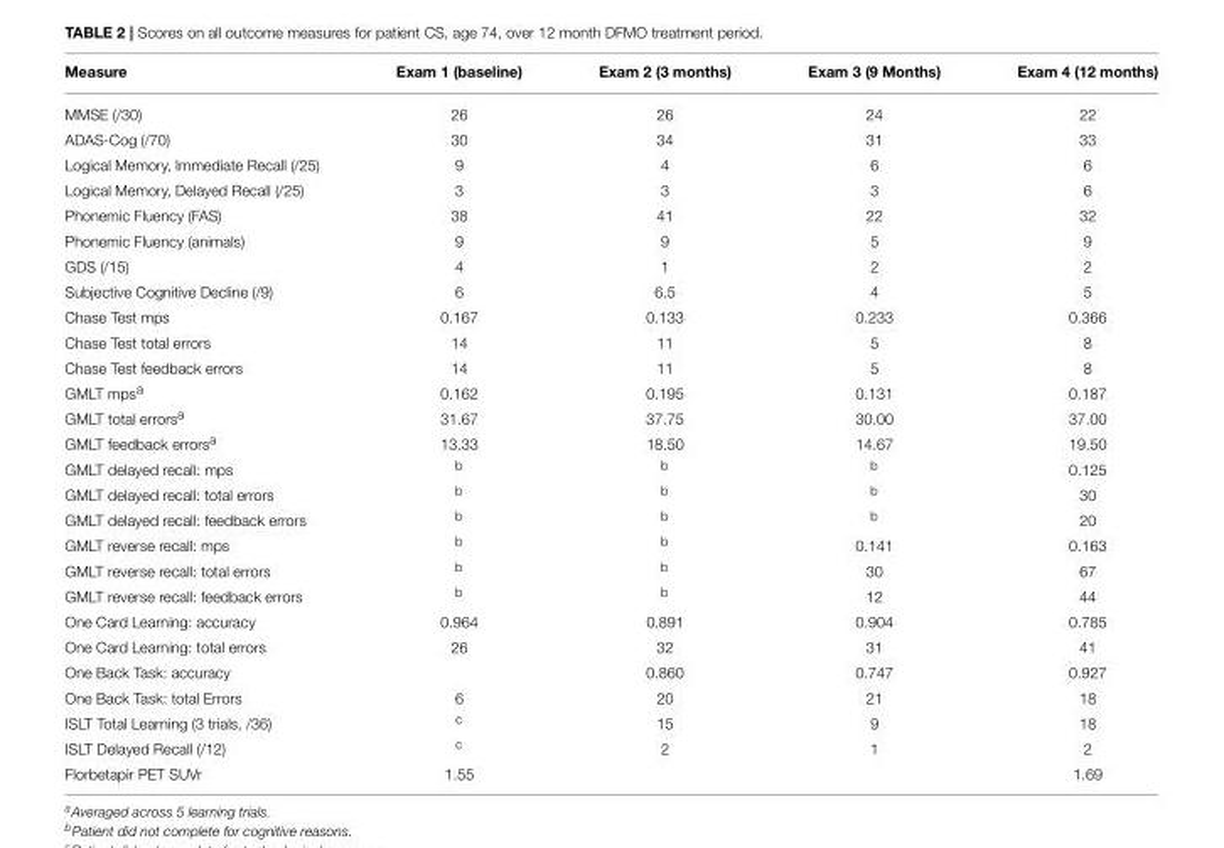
<table><thead><tr><td>Measure</td><td>Exam 1 (baseline)</td><td>Exam 2 (3 months)</td><td>Exam 3 (9 Months)</td><td>Exam 4 (12 months)</td></tr></thead><tbody><tr><td>MMSE (/30)</td><td>26</td><td>26</td><td>24</td><td>22</td></tr><tr><td>ADAS-Cog (/70)</td><td>30</td><td>34</td><td>31</td><td>33</td></tr><tr><td>Logical Memory, Immediate Recall (/25)</td><td>9</td><td>4</td><td>6</td><td>6</td></tr><tr><td>Logical Memory, Delayed Recall (/25)</td><td>3</td><td>3</td><td>3</td><td>6</td></tr><tr><td>Phonemic Fluency (FAS)</td><td>38</td><td>41</td><td>22</td><td>32</td></tr><tr><td>Phonemic Fluency (animals)</td><td>9</td><td>9</td><td>5</td><td>9</td></tr><tr><td>GDS (/15)</td><td>4</td><td>1</td><td>2</td><td>2</td></tr><tr><td>Subjective Cognitive Decline (/9)</td><td>6</td><td>6.5</td><td>4</td><td>5</td></tr><tr><td>Chase Test mps</td><td>0.167</td><td>0.133</td><td>0.233</td><td>0.366</td></tr><tr><td>Chase Test total errors</td><td>14</td><td>11</td><td>5</td><td>8</td></tr><tr><td>Chase Test feedback errors</td><td>14</td><td>11</td><td>5</td><td>8</td></tr><tr><td>GMLT mps<sup>a</sup></td><td>0.162</td><td>0.195</td><td>0.131</td><td>0.187</td></tr><tr><td>GMLT total errors<sup>a</sup></td><td>31.67</td><td>37.75</td><td>30.00</td><td>37.00</td></tr><tr><td>GMLT feedback errors<sup>a</sup></td><td>13.33</td><td>18.50</td><td>14.67</td><td>19.50</td></tr><tr><td>GMLT delayed recall: mps</td><td><sup>b</sup></td><td><sup>b</sup></td><td><sup>b</sup></td><td>0.125</td></tr><tr><td>GMLT delayed recall: total errors</td><td><sup>b</sup></td><td><sup>b</sup></td><td><sup>b</sup></td><td>30</td></tr><tr><td>GMLT delayed recall: feedback errors</td><td><sup>b</sup></td><td><sup>b</sup></td><td><sup>b</sup></td><td>20</td></tr><tr><td>GMLT reverse recall: mps</td><td><sup>b</sup></td><td><sup>b</sup></td><td>0.141</td><td>0.163</td></tr><tr><td>GMLT reverse recall: total errors</td><td><sup>b</sup></td><td><sup>b</sup></td><td>30</td><td>67</td></tr><tr><td>GMLT reverse recall: feedback errors</td><td><sup>b</sup></td><td><sup>b</sup></td><td>12</td><td>44</td></tr><tr><td>One Card Learning: accuracy</td><td>0.964</td><td>0.891</td><td>0.904</td><td>0.785</td></tr><tr><td>One Card Learning: total errors</td><td>26</td><td>32</td><td>31</td><td>41</td></tr><tr><td>One Back Task: accuracy</td><td></td><td>0.860</td><td>0.747</td><td>0.927</td></tr><tr><td>One Back Task: total Errors</td><td>6</td><td>20</td><td>21</td><td>18</td></tr><tr><td>ISLT Total Learning (3 trials, /36)</td><td><sup>c</sup></td><td>15</td><td>9</td><td>18</td></tr><tr><td>ISLT Delayed Recall (/12)</td><td><sup>c</sup></td><td>2</td><td>1</td><td>2</td></tr><tr><td>Florbetapir PET SUVr</td><td>1.55</td><td></td><td></td><td>1.69</td></tr></tbody></table>